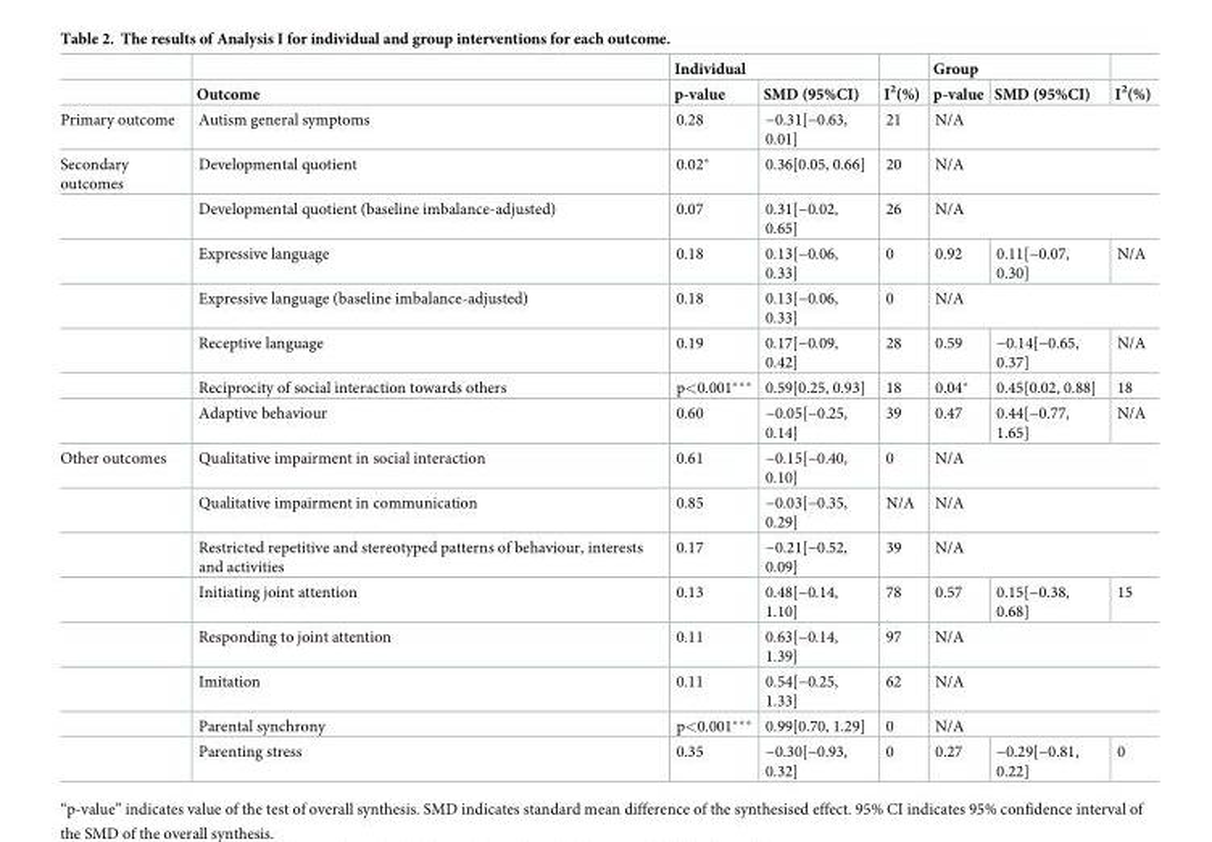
<table><thead><tr><td rowspan="2"></td><td rowspan="2">Outcome</td><td colspan="2">Individual</td><td rowspan="2">I<sup>2</sup>(%)</td><td colspan="2">Group</td><td rowspan="2">I<sup>2</sup>(%)</td></tr><tr><td>p-value</td><td>SMD (95%CI)</td><td>p-value</td><td>SMD (95%CI)</td></tr></thead><tbody><tr><td>Primary outcome</td><td>Autism general symptoms</td><td>0.28</td><td>−0.31[−0.63, 0.01]</td><td>21</td><td colspan="3">N/A</td></tr><tr><td rowspan="7">Secondary outcomes</td><td>Developmental quotient</td><td>0.02*</td><td>0.36[0.05, 0.66]</td><td>20</td><td colspan="3">N/A</td></tr><tr><td>Developmental quotient (baseline imbalance-adjusted)</td><td>0.07</td><td>0.31[−0.02, 0.65]</td><td>26</td><td colspan="3">N/A</td></tr><tr><td>Expressive language</td><td>0.18</td><td>0.13[−0.06, 0.33]</td><td>0</td><td>0.92</td><td>0.11[−0.07, 0.30]</td><td>N/A</td></tr><tr><td>Expressive language (baseline imbalance-adjusted)</td><td>0.18</td><td>0.13[−0.06, 0.33]</td><td>0</td><td colspan="3">N/A</td></tr><tr><td>Receptive language</td><td>0.19</td><td>0.17[−0.09, 0.42]</td><td>28</td><td>0.59</td><td>−0.14[−0.65, 0.37]</td><td>N/A</td></tr><tr><td>Reciprocity of social interaction towards others</td><td>p&lt;0.001***</td><td>0.59[0.25, 0.93]</td><td>18</td><td>0.04*</td><td>0.45[0.02, 0.88]</td><td>18</td></tr><tr><td>Adaptive behaviour</td><td>0.60</td><td>−0.05[−0.25, 0.14]</td><td>39</td><td>0.47</td><td>0.44[−0.77, 1.65]</td><td>N/A</td></tr><tr><td rowspan="8">Other outcomes</td><td>Qualitative impairment in social interaction</td><td>0.61</td><td>−0.15[−0.40, 0.10]</td><td>0</td><td colspan="3">N/A</td></tr><tr><td>Qualitative impairment in communication</td><td>0.85</td><td>−0.03[−0.35, 0.29]</td><td>N/A</td><td colspan="3">N/A</td></tr><tr><td>Restricted repetitive and stereotyped patterns of behaviour, interests and activities</td><td>0.17</td><td>−0.21[−0.52, 0.09]</td><td>39</td><td colspan="3">N/A</td></tr><tr><td>Initiating joint attention</td><td>0.13</td><td>0.48[−0.14, 1.10]</td><td>78</td><td>0.57</td><td>0.15[−0.38, 0.68]</td><td>15</td></tr><tr><td>Responding to joint attention</td><td>0.11</td><td>0.63[−0.14, 1.39]</td><td>97</td><td colspan="3">N/A</td></tr><tr><td>Imitation</td><td>0.11</td><td>0.54[−0.25, 1.33]</td><td>62</td><td colspan="3">N/A</td></tr><tr><td>Parental synchrony</td><td>p&lt;0.001***</td><td>0.99[0.70, 1.29]</td><td>0</td><td colspan="3">N/A</td></tr><tr><td>Parenting stress</td><td>0.35</td><td>−0.30[−0.93, 0.32]</td><td>0</td><td>0.27</td><td>−0.29[−0.81, 0.22]</td><td>0</td></tr></tbody></table>